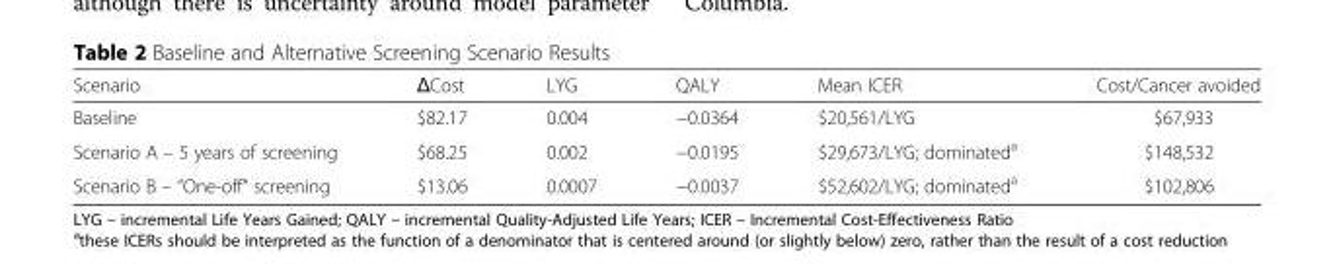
<table><thead><tr><td>Scenario</td><td>ΔCost</td><td>LYG</td><td>QALY</td><td>Mean ICER</td><td>Cost/Cancer avoided</td></tr></thead><tbody><tr><td>Baseline</td><td>$82.17</td><td>0.004</td><td>−0.0364</td><td>$20,561/LYG</td><td>$67,933</td></tr><tr><td>Scenario A – 5 years of screening</td><td>$68.25</td><td>0.002</td><td>−0.0195</td><td>$29,673/LYG; dominated<sup>a</sup></td><td>$148,532</td></tr><tr><td>Scenario B – “One-off” screening</td><td>$13.06</td><td>0.0007</td><td>−0.0037</td><td>$52,602/LYG; dominated<sup>a</sup></td><td>$102,806</td></tr></tbody></table>